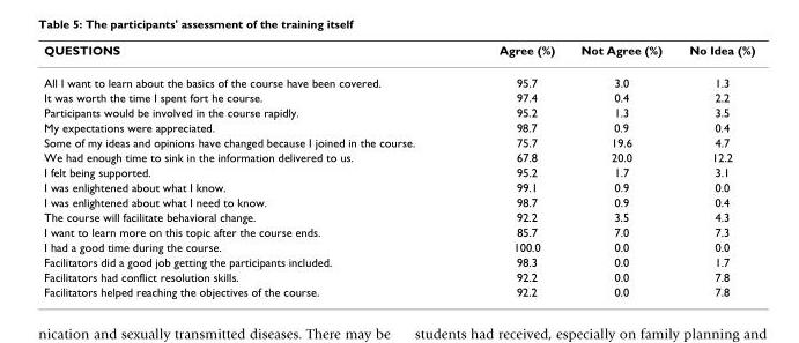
<table><thead><tr><td>QUESTIONS</td><td>Agree (%)</td><td>Not Agree (%)</td><td>No Idea (%)</td></tr></thead><tbody><tr><td>All I want to learn about the basics of the course have been covered.</td><td>95.7</td><td>3.0</td><td>1.3</td></tr><tr><td>It was worth the time I spent fort he course.</td><td>97.4</td><td>0.4</td><td>2.2</td></tr><tr><td>Participants would be involved in the course rapidly.</td><td>95.2</td><td>1.3</td><td>3.5</td></tr><tr><td>My expectations were appreciated.</td><td>98.7</td><td>0.9</td><td>0.4</td></tr><tr><td>Some of my ideas and opinions have changed because I joined in the course.</td><td>75.7</td><td>19.6</td><td>4.7</td></tr><tr><td>We had enough time to sink in the information delivered to us.</td><td>67.8</td><td>20.0</td><td>12.2</td></tr><tr><td>I felt being supported.</td><td>95.2</td><td>1.7</td><td>3.1</td></tr><tr><td>I was enlightened about what I know.</td><td>99.1</td><td>0.9</td><td>0.0</td></tr><tr><td>I was enlightened about what I need to know.</td><td>98.7</td><td>0.9</td><td>0.4</td></tr><tr><td>The course will facilitate behavioral change.</td><td>92.2</td><td>3.5</td><td>4.3</td></tr><tr><td>I want to learn more on this topic after the course ends.</td><td>85.7</td><td>7.0</td><td>7.3</td></tr><tr><td>I had a good time during the course.</td><td>100.0</td><td>0.0</td><td>0.0</td></tr><tr><td>Facilitators did a good job getting the participants included.</td><td>98.3</td><td>0.0</td><td>1.7</td></tr><tr><td>Facilitators had conflict resolution skills.</td><td>92.2</td><td>0.0</td><td>7.8</td></tr><tr><td>Facilitators helped reaching the objectives of the course.</td><td>92.2</td><td>0.0</td><td>7.8</td></tr></tbody></table>